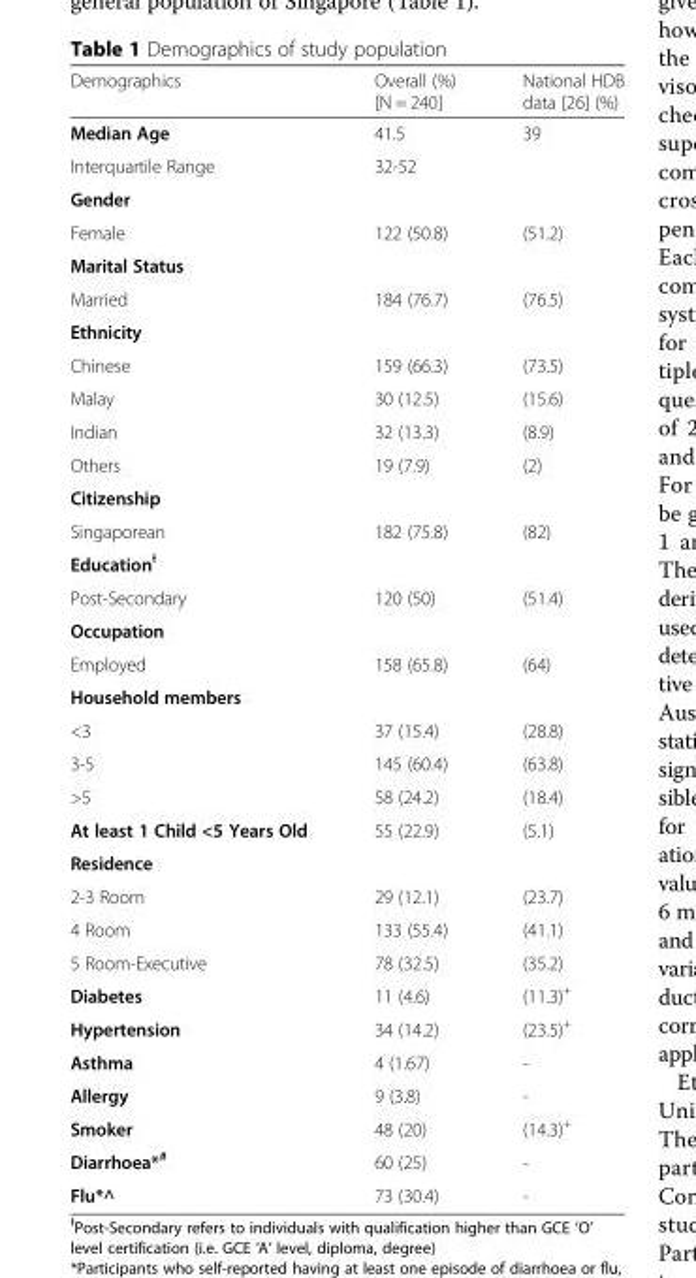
<table><thead><tr><td>Demographics</td><td>Overall (%) [N = 240]</td><td>National HDB data [26] (%)</td></tr></thead><tbody><tr><td>Median Age</td><td>41.5</td><td>39</td></tr><tr><td>Interquartile Range</td><td>32-52</td><td></td></tr><tr><td colspan="3">Gender</td></tr><tr><td>Female</td><td>122 (50.8)</td><td>(51.2)</td></tr><tr><td colspan="3">Marital Status</td></tr><tr><td>Married</td><td>184 (76.7)</td><td>(76.5)</td></tr><tr><td colspan="3">Ethnicity</td></tr><tr><td>Chinese</td><td>159 (66.3)</td><td>(73.5)</td></tr><tr><td>Malay</td><td>30 (12.5)</td><td>(15.6)</td></tr><tr><td>Indian</td><td>32 (13.3)</td><td>(8.9)</td></tr><tr><td>Others</td><td>19 (7.9)</td><td>(2)</td></tr><tr><td colspan="3">Citizenship</td></tr><tr><td>Singaporean</td><td>182 (75.8)</td><td>(82)</td></tr><tr><td colspan="3">Education<sup>Ɨ</sup></td></tr><tr><td>Post-Secondary</td><td>120 (50)</td><td>(51.4)</td></tr><tr><td colspan="3">Occupation</td></tr><tr><td>Employed</td><td>158 (65.8)</td><td>(64)</td></tr><tr><td colspan="3">Household members</td></tr><tr><td>&lt;3</td><td>37 (15.4)</td><td>(28.8)</td></tr><tr><td>3-5</td><td>145 (60.4)</td><td>(63.8)</td></tr><tr><td>&gt;5</td><td>58 (24.2)</td><td>(18.4)</td></tr><tr><td>At least 1 Child &lt;5 Years Old</td><td>55 (22.9)</td><td>(5.1)</td></tr><tr><td colspan="3">Residence</td></tr><tr><td>2-3 Room</td><td>29 (12.1)</td><td>(23.7)</td></tr><tr><td>4 Room</td><td>133 (55.4)</td><td>(41.1)</td></tr><tr><td>5 Room-Executive</td><td>78 (32.5)</td><td>(35.2)</td></tr><tr><td>Diabetes</td><td>11 (4.6)</td><td>(11.3)<sup>+</sup></td></tr><tr><td>Hypertension</td><td>34 (14.2)</td><td>(23.5)<sup>+</sup></td></tr><tr><td>Asthma</td><td>4 (1.67)</td><td>-</td></tr><tr><td>Allergy</td><td>9 (3.8)</td><td>-</td></tr><tr><td>Smoker</td><td>48 (20)</td><td>(14.3)<sup>+</sup></td></tr><tr><td>Diarrhoea*<sup>#</sup></td><td>60 (25)</td><td>-</td></tr><tr><td>Flu*^</td><td>73 (30.4)</td><td>-</td></tr></tbody></table>